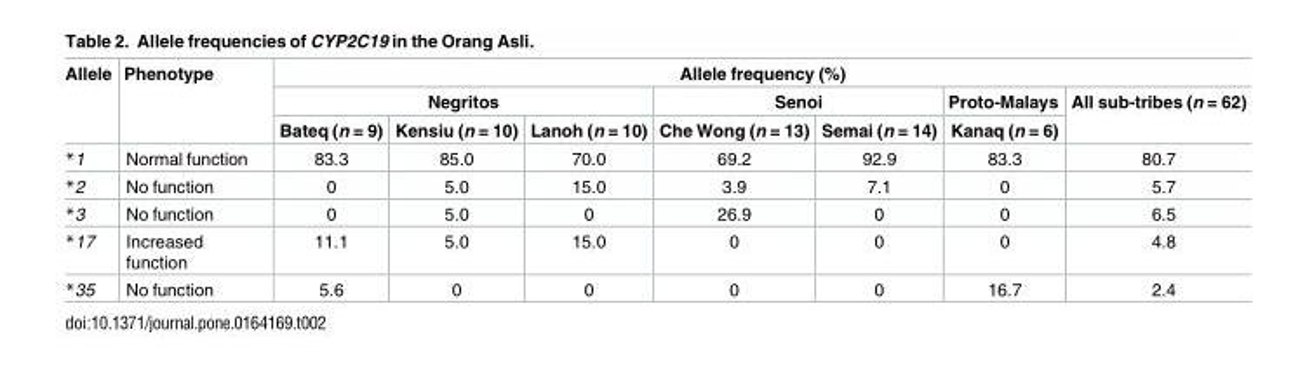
<table><thead><tr><td rowspan="3">Allele</td><td rowspan="3">Phenotype</td><td colspan="7">Allele frequency (%)</td></tr><tr><td colspan="3">Negritos</td><td colspan="2">Senoi</td><td rowspan="2">Proto-Malays Kanaq (n = 6)</td><td rowspan="2">All sub-tribes (n = 62)</td></tr><tr><td>Bateq (n = 9)</td><td>Kensiu (n = 10)</td><td>Lanoh (n = 10)</td><td>Che Wong (n = 13)</td><td>Semai (n = 14)</td></tr></thead><tbody><tr><td>*1</td><td>Normal function</td><td>83.3</td><td>85.0</td><td>70.0</td><td>69.2</td><td>92.9</td><td>83.3</td><td>80.7</td></tr><tr><td>*2</td><td>No function</td><td>0</td><td>5.0</td><td>15.0</td><td>3.9</td><td>7.1</td><td>0</td><td>5.7</td></tr><tr><td>*3</td><td>No function</td><td>0</td><td>5.0</td><td>0</td><td>26.9</td><td>0</td><td>0</td><td>6.5</td></tr><tr><td>*17</td><td>Increased function</td><td>11.1</td><td>5.0</td><td>15.0</td><td>0</td><td>0</td><td>0</td><td>4.8</td></tr><tr><td>*35</td><td>No function</td><td>5.6</td><td>0</td><td>0</td><td>0</td><td>0</td><td>16.7</td><td>2.4</td></tr></tbody></table>